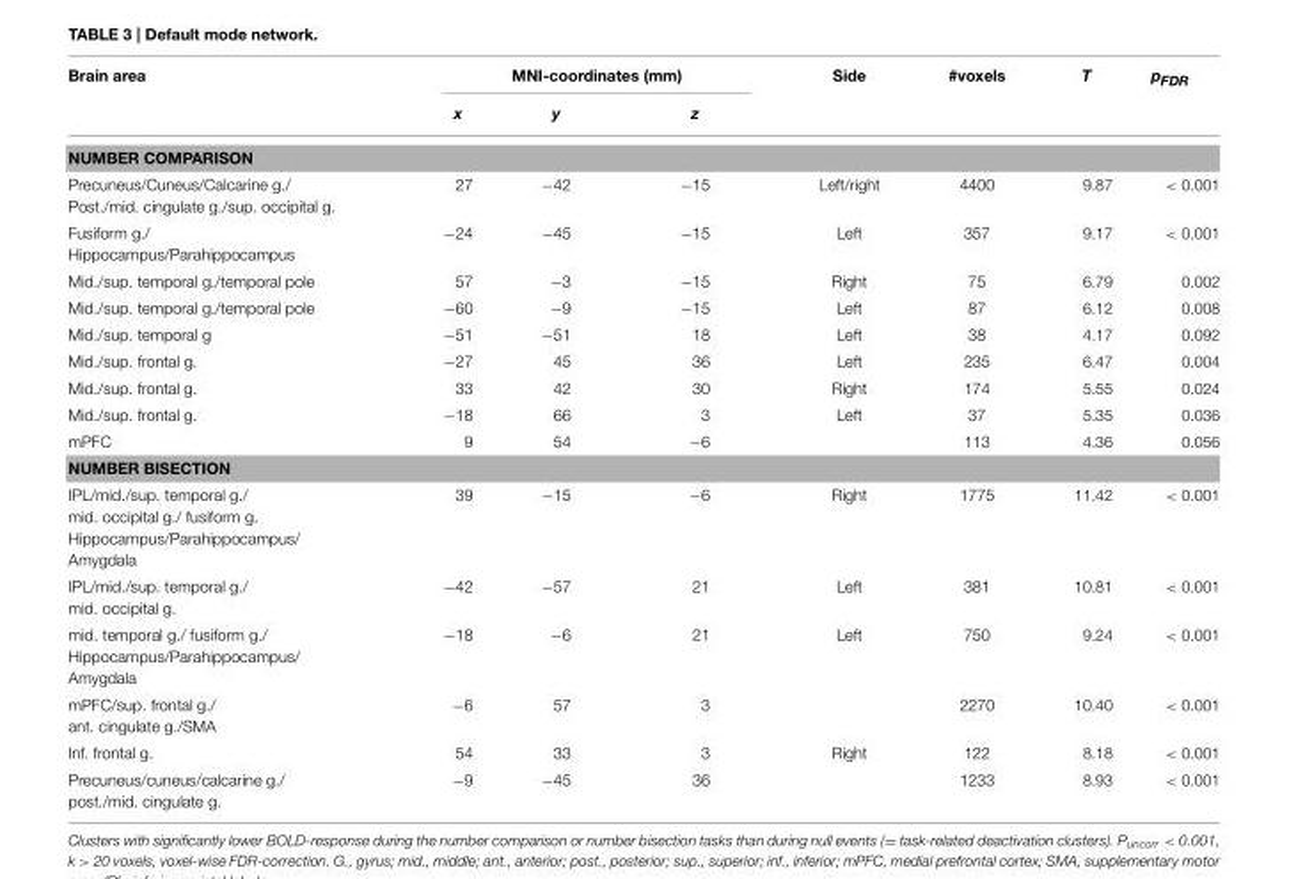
<table><thead><tr><td rowspan="2">Brain area</td><td colspan="3">MNI-coordinates (mm)</td><td rowspan="2">Side</td><td rowspan="2">#voxels</td><td rowspan="2">T</td><td rowspan="2">p<sub>FDR</sub></td></tr><tr><td>x</td><td>y</td><td>z</td></tr></thead><tbody><tr><td colspan="8">NUMBER COMPARISON</td></tr><tr><td>Precuneus/Cuneus/Calcarine g./ Post./mid. cingulate g./sup. occipital g.</td><td>27</td><td>−42</td><td>−15</td><td>Left/right</td><td>4400</td><td>9.87</td><td>&lt; 0.001</td></tr><tr><td>Fusiform g./ Hippocampus/Parahippocampus</td><td>−24</td><td>−45</td><td>−15</td><td>Left</td><td>357</td><td>9.17</td><td>&lt; 0.001</td></tr><tr><td>Mid./sup. temporal g./temporal pole</td><td>57</td><td>−3</td><td>−15</td><td>Right</td><td>75</td><td>6.79</td><td>0.002</td></tr><tr><td>Mid./sup. temporal g./temporal pole</td><td>−60</td><td>−9</td><td>−15</td><td>Left</td><td>87</td><td>6.12</td><td>0.008</td></tr><tr><td>Mid./sup. temporal g</td><td>−51</td><td>−51</td><td>18</td><td>Left</td><td>38</td><td>4.17</td><td>0.092</td></tr><tr><td>Mid./sup. frontal g.</td><td>−27</td><td>45</td><td>36</td><td>Left</td><td>235</td><td>6.47</td><td>0.004</td></tr><tr><td>Mid./sup. frontal g.</td><td>33</td><td>42</td><td>30</td><td>Right</td><td>174</td><td>5.55</td><td>0.024</td></tr><tr><td>Mid./sup. frontal g.</td><td>−18</td><td>66</td><td>3</td><td>Left</td><td>37</td><td>5.35</td><td>0.036</td></tr><tr><td>mPFC</td><td>9</td><td>54</td><td>−6</td><td></td><td>113</td><td>4.36</td><td>0.056</td></tr><tr><td colspan="8">NUMBER BISECTION</td></tr><tr><td>IPL/mid./sup. temporal g./ mid. occipital g./ fusiform g. Hippocampus/Parahippocampus/ Amygdala</td><td>39</td><td>−15</td><td>−6</td><td>Right</td><td>1775</td><td>11.42</td><td>&lt; 0.001</td></tr><tr><td>IPL/mid./sup. temporal g./ mid. occipital g.</td><td>−42</td><td>−57</td><td>21</td><td>Left</td><td>381</td><td>10.81</td><td>&lt; 0.001</td></tr><tr><td>mid. temporal g./ fusiform g./ Hippocampus/Parahippocampus/ Amygdala</td><td>−18</td><td>−6</td><td>21</td><td>Left</td><td>750</td><td>9.24</td><td>&lt; 0.001</td></tr><tr><td>mPFC/sup. frontal g./ ant. cingulate g./SMA</td><td>−6</td><td>57</td><td>3</td><td></td><td>2270</td><td>10.40</td><td>&lt; 0.001</td></tr><tr><td>Inf. frontal g.</td><td>54</td><td>33</td><td>3</td><td>Right</td><td>122</td><td>8.18</td><td>&lt; 0.001</td></tr><tr><td>Precuneus/cuneus/calcarine g./ post./mid. cingulate g.</td><td>−9</td><td>−45</td><td>36</td><td></td><td>1233</td><td>8.93</td><td>&lt; 0.001</td></tr></tbody></table>